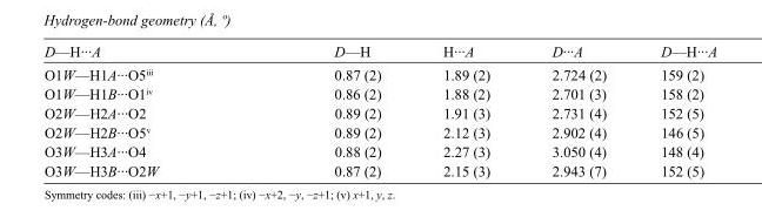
<table><tbody><tr><td>D—H···A</td><td>D—H</td><td>H···A</td><td>D···A</td><td>D—H···A</td></tr><tr><td>O1W—H1A···O5<sup>iii</sup></td><td>0.87 (2)</td><td>1.89 (2)</td><td>2.724 (2)</td><td>159 (2)</td></tr><tr><td>O1W—H1B···O1<sup>iv</sup></td><td>0.86 (2)</td><td>1.88 (2)</td><td>2.701 (3)</td><td>158 (2)</td></tr><tr><td>O2W—H2A···O2</td><td>0.89 (2)</td><td>1.91 (3)</td><td>2.731 (4)</td><td>152 (5)</td></tr><tr><td>O2W—H2B···O5<sup>v</sup></td><td>0.89 (2)</td><td>2.12 (3)</td><td>2.902 (4)</td><td>146 (5)</td></tr><tr><td>O3W—H3A···O4</td><td>0.88 (2)</td><td>2.27 (3)</td><td>3.050 (4)</td><td>148 (4)</td></tr><tr><td>O3W—H3B···O2W</td><td>0.87 (2)</td><td>2.15 (3)</td><td>2.943 (7)</td><td>152 (5)</td></tr></tbody></table>